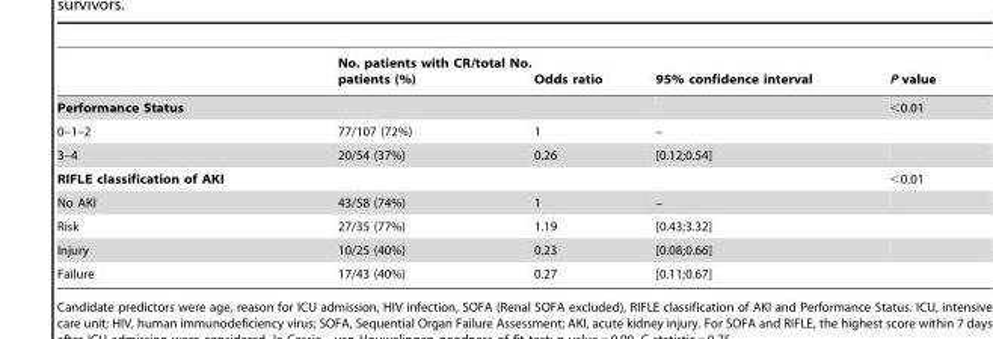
<table><thead><tr><td></td><td>No. patients with CR/total No. patients (%)</td><td>Odds ratio</td><td>95% confidence interval</td><td>P value</td></tr></thead><tbody><tr><td>Performance Status</td><td></td><td></td><td></td><td>&lt;0.01</td></tr><tr><td>0–1–2</td><td>77/107 (72%)</td><td>1</td><td>–</td><td></td></tr><tr><td>3–4</td><td>20/54 (37%)</td><td>0.26</td><td>[0.12;0.54]</td><td></td></tr><tr><td>RIFLE classification of AKI</td><td></td><td></td><td></td><td>&lt;0.01</td></tr><tr><td>No AKI</td><td>43/58 (74%)</td><td>1</td><td>–</td><td></td></tr><tr><td>Risk</td><td>27/35 (77%)</td><td>1.19</td><td>[0.43;3.32]</td><td></td></tr><tr><td>Injury</td><td>10/25 (40%)</td><td>0.23</td><td>[0.08;0.66]</td><td></td></tr><tr><td>Failure</td><td>17/43 (40%)</td><td>0.27</td><td>[0.11;0.67]</td><td></td></tr></tbody></table>